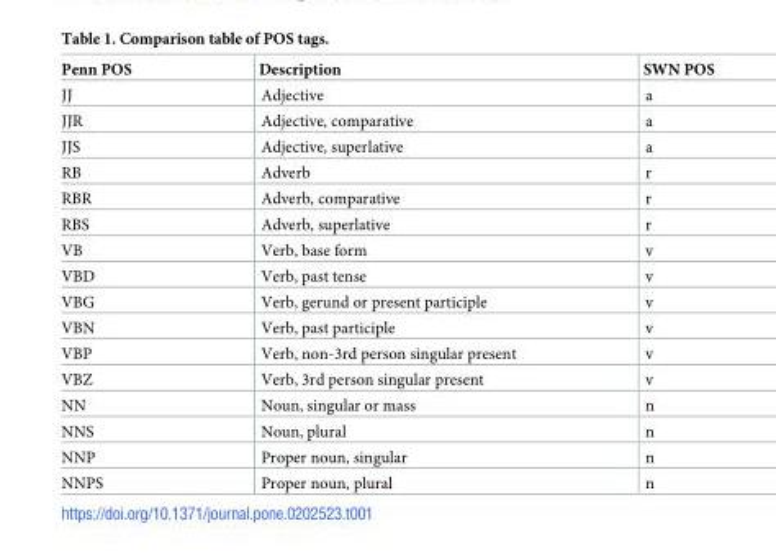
<table><thead><tr><td>Penn POS</td><td>Description</td><td>SWN POS</td></tr></thead><tbody><tr><td>JJ</td><td>Adjective</td><td>a</td></tr><tr><td>JJR</td><td>Adjective, comparative</td><td>a</td></tr><tr><td>JJS</td><td>Adjective, superlative</td><td>a</td></tr><tr><td>RB</td><td>Adverb</td><td>r</td></tr><tr><td>RBR</td><td>Adverb, comparative</td><td>r</td></tr><tr><td>RBS</td><td>Adverb, superlative</td><td>r</td></tr><tr><td>VB</td><td>Verb, base form</td><td>v</td></tr><tr><td>VBD</td><td>Verb, past tense</td><td>v</td></tr><tr><td>VBG</td><td>Verb, gerund or present participle</td><td>v</td></tr><tr><td>VBN</td><td>Verb, past participle</td><td>v</td></tr><tr><td>VBP</td><td>Verb, non-3rd person singular present</td><td>v</td></tr><tr><td>VBZ</td><td>Verb, 3rd person singular present</td><td>v</td></tr><tr><td>NN</td><td>Noun, singular or mass</td><td>n</td></tr><tr><td>NNS</td><td>Noun, plural</td><td>n</td></tr><tr><td>NNP</td><td>Proper noun, singular</td><td>n</td></tr><tr><td>NNPS</td><td>Proper noun, plural</td><td>n</td></tr></tbody></table>